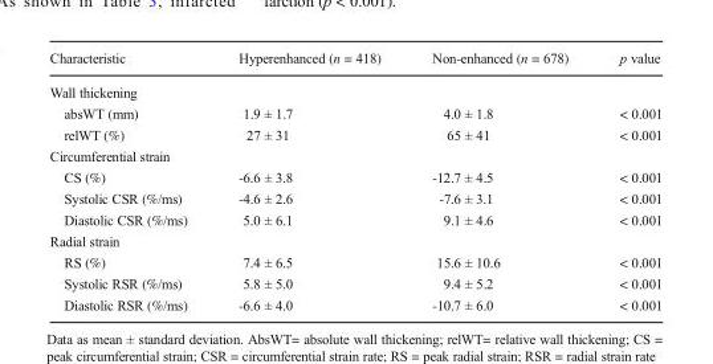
<table><thead><tr><td>Characteristic</td><td>Hyperenhanced (n = 418)</td><td>Non-enhanced (n = 678)</td><td>p value</td></tr></thead><tbody><tr><td colspan="4">Wall thickening</td></tr><tr><td>absWT (mm)</td><td>1.9 ± 1.7</td><td>4.0 ± 1.8</td><td>&lt; 0.001</td></tr><tr><td>relWT (%)</td><td>27 ± 31</td><td>65 ± 41</td><td>&lt; 0.001</td></tr><tr><td colspan="4">Circumferential strain</td></tr><tr><td>CS (%)</td><td>-6.6 ± 3.8</td><td>-12.7 ± 4.5</td><td>&lt; 0.001</td></tr><tr><td>Systolic CSR (%/ms)</td><td>-4.6 ± 2.6</td><td>-7.6 ± 3.1</td><td>&lt; 0.001</td></tr><tr><td>Diastolic CSR (%/ms)</td><td>5.0 ± 6.1</td><td>9.1 ± 4.6</td><td>&lt; 0.001</td></tr><tr><td colspan="4">Radial strain</td></tr><tr><td>RS (%)</td><td>7.4 ± 6.5</td><td>15.6 ± 10.6</td><td>&lt; 0.001</td></tr><tr><td>Systolic RSR (%/ms)</td><td>5.8 ± 5.0</td><td>9.4 ± 5.2</td><td>&lt; 0.001</td></tr><tr><td>Diastolic RSR (%/ms)</td><td>-6.6 ± 4.0</td><td>-10.7 ± 6.0</td><td>&lt; 0.001</td></tr></tbody></table>